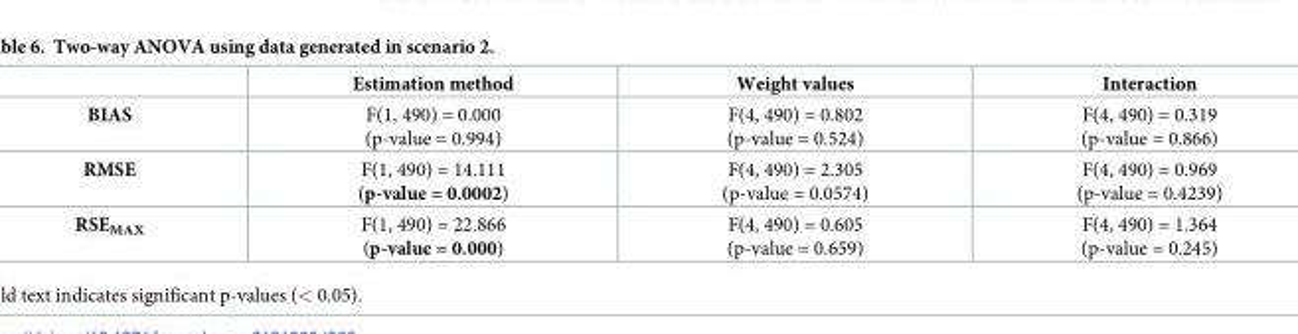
<table><thead><tr><td></td><td>Estimation method</td><td>Weight values</td><td>Interaction</td></tr></thead><tbody><tr><td>BIAS</td><td>F(1, 490) = 0.000 (p-value = 0.994)</td><td>F(4, 490) = 0.802 (p-value = 0.524)</td><td>F(4, 490) = 0.319 (p-value = 0.866)</td></tr><tr><td>RMSE</td><td>F(1, 490) = 14.111 (p-value = 0.0002)</td><td>F(4, 490) = 2.305 (p-value = 0.0574)</td><td>F(4, 490) = 0.969 (p-value = 0.4239)</td></tr><tr><td>RSE<sub>MAX</sub></td><td>F(1, 490) = 22.866 (p-value = 0.000)</td><td>F(4, 490) = 0.605 (p-value = 0.659)</td><td>F(4, 490) = 1.364 (p-value = 0.245)</td></tr></tbody></table>